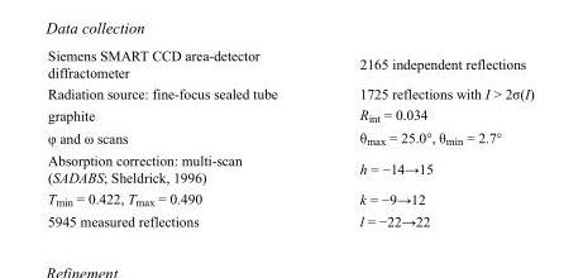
<table><tbody><tr><td>Siemens SMART CCD area-detector diffractometer</td><td>2165 independent reflections</td></tr><tr><td>Radiation source: fine-focus sealed tube</td><td>1725 reflections with I &gt; 2σ(I)</td></tr><tr><td>graphite</td><td>R<sub>int</sub> = 0.034</td></tr><tr><td>φ and ω scans</td><td>θ<sub>max</sub> = 25.0°, θ<sub>min</sub> = 2.7°</td></tr><tr><td>Absorption correction: multi-scan (SADABS; Sheldrick, 1996)</td><td>h = −14→15</td></tr><tr><td>T<sub>min</sub> = 0.422, T<sub>max</sub> = 0.490</td><td>k = −9→12</td></tr><tr><td>5945 measured reflections</td><td>l = −22→22</td></tr></tbody></table>